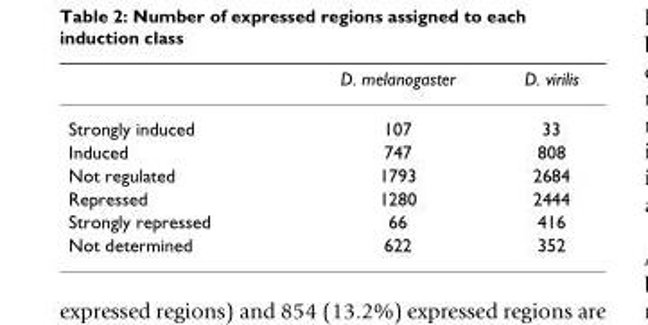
<table><thead><tr><td></td><td>D. melanogaster</td><td>D. virilis</td></tr></thead><tbody><tr><td>Strongly induced</td><td>107</td><td>33</td></tr><tr><td>Induced</td><td>747</td><td>808</td></tr><tr><td>Not regulated</td><td>1793</td><td>2684</td></tr><tr><td>Repressed</td><td>1280</td><td>2444</td></tr><tr><td>Strongly repressed</td><td>66</td><td>416</td></tr><tr><td>Not determined</td><td>622</td><td>352</td></tr></tbody></table>